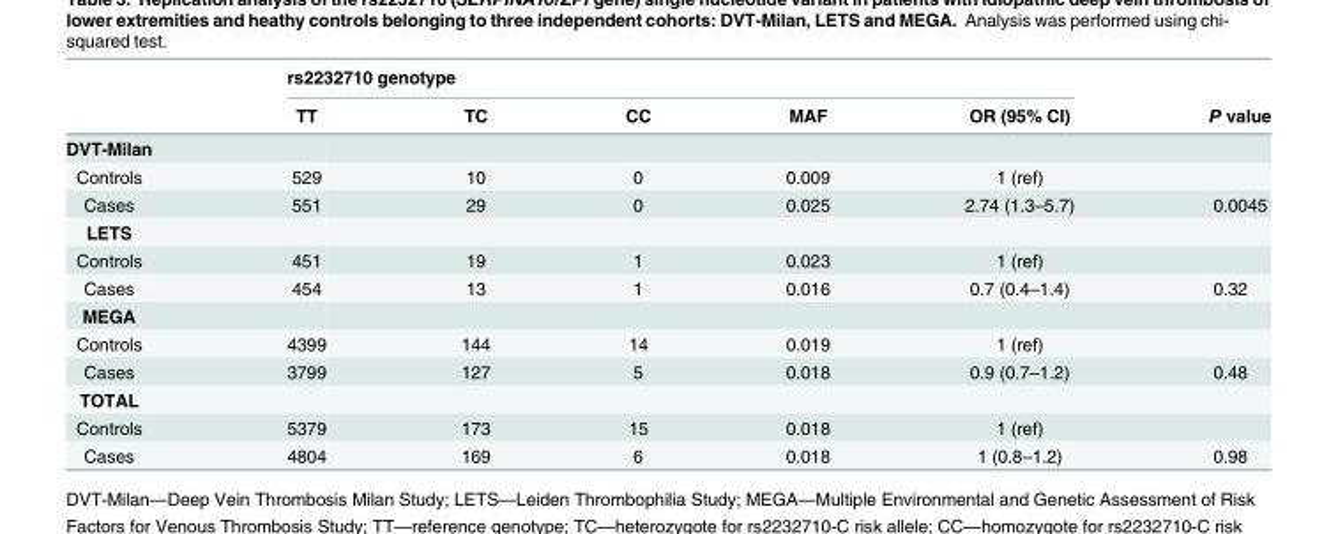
<table><thead><tr><td rowspan="2"></td><td colspan="5">rs2232710 genotype</td><td rowspan="2">P value</td></tr><tr><td>TT</td><td>TC</td><td>CC</td><td>MAF</td><td>OR (95% CI)</td></tr></thead><tbody><tr><td colspan="7">DVT-Milan</td></tr><tr><td>Controls</td><td>529</td><td>10</td><td>0</td><td>0.009</td><td>1 (ref)</td><td></td></tr><tr><td>Cases</td><td>551</td><td>29</td><td>0</td><td>0.025</td><td>2.74 (1.3–5.7)</td><td>0.0045</td></tr><tr><td colspan="7">LETS</td></tr><tr><td>Controls</td><td>451</td><td>19</td><td>1</td><td>0.023</td><td>1 (ref)</td><td></td></tr><tr><td>Cases</td><td>454</td><td>13</td><td>1</td><td>0.016</td><td>0.7 (0.4–1.4)</td><td>0.32</td></tr><tr><td colspan="7">MEGA</td></tr><tr><td>Controls</td><td>4399</td><td>144</td><td>14</td><td>0.019</td><td>1 (ref)</td><td></td></tr><tr><td>Cases</td><td>3799</td><td>127</td><td>5</td><td>0.018</td><td>0.9 (0.7–1.2)</td><td>0.48</td></tr><tr><td colspan="7">TOTAL</td></tr><tr><td>Controls</td><td>5379</td><td>173</td><td>15</td><td>0.018</td><td>1 (ref)</td><td></td></tr><tr><td>Cases</td><td>4804</td><td>169</td><td>6</td><td>0.018</td><td>1 (0.8–1.2)</td><td>0.98</td></tr></tbody></table>